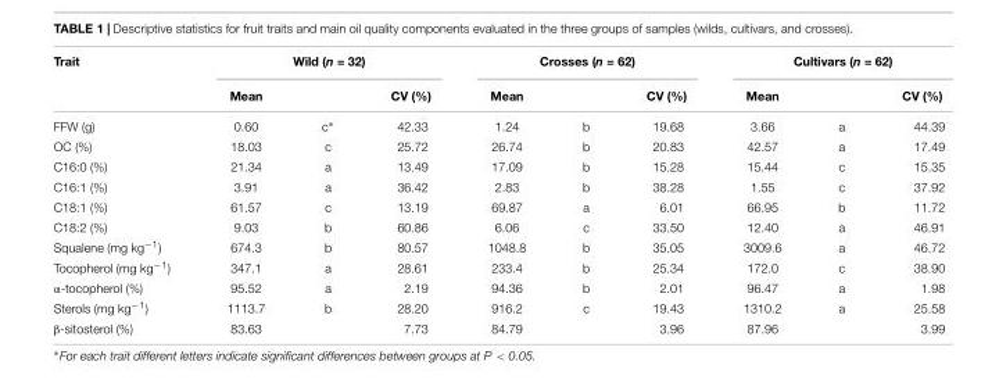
<table><thead><tr><td rowspan="2">Trait</td><td colspan="3">Wild (n = 32)</td><td colspan="3">Crosses (n = 62)</td><td colspan="3">Cultivars (n = 62)</td></tr><tr><td>Mean</td><td></td><td>CV (%)</td><td>Mean</td><td></td><td>CV (%)</td><td>Mean</td><td></td><td>CV (%)</td></tr></thead><tbody><tr><td>FFW (g)</td><td>0.60</td><td>c∗</td><td>42.33</td><td>1.24</td><td>b</td><td>19.68</td><td>3.66</td><td>a</td><td>44.39</td></tr><tr><td>OC (%)</td><td>18.03</td><td>c</td><td>25.72</td><td>26.74</td><td>b</td><td>20.83</td><td>42.57</td><td>a</td><td>17.49</td></tr><tr><td>C16:0 (%)</td><td>21.34</td><td>a</td><td>13.49</td><td>17.09</td><td>b</td><td>15.28</td><td>15.44</td><td>c</td><td>15.35</td></tr><tr><td>C16:1 (%)</td><td>3.91</td><td>a</td><td>36.42</td><td>2.83</td><td>b</td><td>38.28</td><td>1.55</td><td>c</td><td>37.92</td></tr><tr><td>C18:1 (%)</td><td>61.57</td><td>c</td><td>13.19</td><td>69.87</td><td>a</td><td>6.01</td><td>66.95</td><td>b</td><td>11.72</td></tr><tr><td>C18:2 (%)</td><td>9.03</td><td>b</td><td>60.86</td><td>6.06</td><td>c</td><td>33.50</td><td>12.40</td><td>a</td><td>46.91</td></tr><tr><td>Squalene (mg kg<sup>−1</sup>)</td><td>674.3</td><td>b</td><td>80.57</td><td>1048.8</td><td>b</td><td>35.05</td><td>3009.6</td><td>a</td><td>46.72</td></tr><tr><td>Tocopherol (mg kg<sup>−1</sup>)</td><td>347.1</td><td>a</td><td>28.61</td><td>233.4</td><td>b</td><td>25.34</td><td>172.0</td><td>c</td><td>38.90</td></tr><tr><td>α-tocopherol (%)</td><td>95.52</td><td>a</td><td>2.19</td><td>94.36</td><td>b</td><td>2.01</td><td>96.47</td><td>a</td><td>1.98</td></tr><tr><td>Sterols (mg kg<sup>−1</sup>)</td><td>1113.7</td><td>b</td><td>28.20</td><td>916.2</td><td>c</td><td>19.43</td><td>1310.2</td><td>a</td><td>25.58</td></tr><tr><td>β-sitosterol (%)</td><td>83.63</td><td></td><td>7.73</td><td>84.79</td><td></td><td>3.96</td><td>87.96</td><td></td><td>3.99</td></tr></tbody></table>